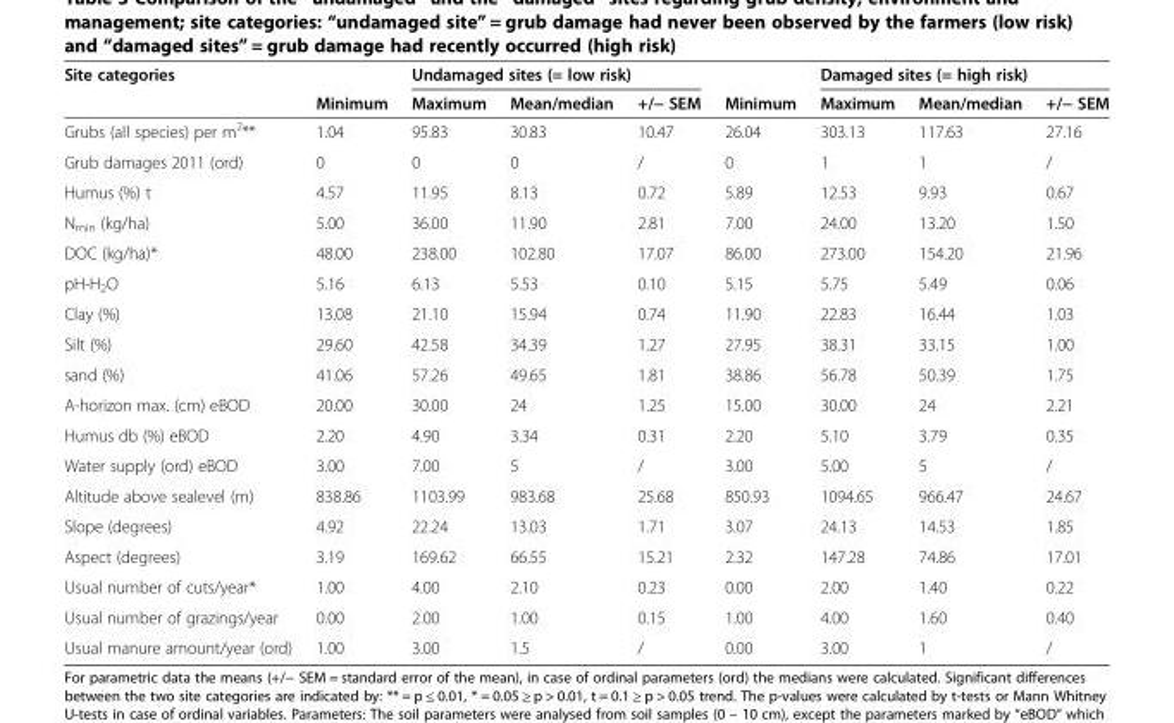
<table><thead><tr><td rowspan="2">Site categories</td><td rowspan="2">Minimum</td><td colspan="3">Undamaged sites (= low risk)</td><td rowspan="2">Minimum</td><td colspan="3">Damaged sites (= high risk)</td></tr><tr><td>Maximum</td><td>Mean/median</td><td>+/− SEM</td><td>Maximum</td><td>Mean/median</td><td>+/− SEM</td></tr></thead><tbody><tr><td>Grubs (all species) per m<sup>2</sup>**</td><td>1.04</td><td>95.83</td><td>30.83</td><td>10.47</td><td>26.04</td><td>303.13</td><td>117.63</td><td>27.16</td></tr><tr><td>Grub damages 2011 (ord)</td><td>0</td><td>0</td><td>0</td><td>/</td><td>0</td><td>1</td><td>1</td><td>/</td></tr><tr><td>Humus (%) t</td><td>4.57</td><td>11.95</td><td>8.13</td><td>0.72</td><td>5.89</td><td>12.53</td><td>9.93</td><td>0.67</td></tr><tr><td>N<sub>min</sub> (kg/ha)</td><td>5.00</td><td>36.00</td><td>11.90</td><td>2.81</td><td>7.00</td><td>24.00</td><td>13.20</td><td>1.50</td></tr><tr><td>DOC (kg/ha)*</td><td>48.00</td><td>238.00</td><td>102.80</td><td>17.07</td><td>86.00</td><td>273.00</td><td>154.20</td><td>21.96</td></tr><tr><td>pH-H<sub>2</sub>O</td><td>5.16</td><td>6.13</td><td>5.53</td><td>0.10</td><td>5.15</td><td>5.75</td><td>5.49</td><td>0.06</td></tr><tr><td>Clay (%)</td><td>13.08</td><td>21.10</td><td>15.94</td><td>0.74</td><td>11.90</td><td>22.83</td><td>16.44</td><td>1.03</td></tr><tr><td>Silt (%)</td><td>29.60</td><td>42.58</td><td>34.39</td><td>1.27</td><td>27.95</td><td>38.31</td><td>33.15</td><td>1.00</td></tr><tr><td>sand (%)</td><td>41.06</td><td>57.26</td><td>49.65</td><td>1.81</td><td>38.86</td><td>56.78</td><td>50.39</td><td>1.75</td></tr><tr><td>A-horizon max. (cm) eBOD</td><td>20.00</td><td>30.00</td><td>24</td><td>1.25</td><td>15.00</td><td>30.00</td><td>24</td><td>2.21</td></tr><tr><td>Humus db (%) eBOD</td><td>2.20</td><td>4.90</td><td>3.34</td><td>0.31</td><td>2.20</td><td>5.10</td><td>3.79</td><td>0.35</td></tr><tr><td>Water supply (ord) eBOD</td><td>3.00</td><td>7.00</td><td>5</td><td>/</td><td>3.00</td><td>5.00</td><td>5</td><td>/</td></tr><tr><td>Altitude above sealevel (m)</td><td>838.86</td><td>1103.99</td><td>983.68</td><td>25.68</td><td>850.93</td><td>1094.65</td><td>966.47</td><td>24.67</td></tr><tr><td>Slope (degrees)</td><td>4.92</td><td>22.24</td><td>13.03</td><td>1.71</td><td>3.07</td><td>24.13</td><td>14.53</td><td>1.85</td></tr><tr><td>Aspect (degrees)</td><td>3.19</td><td>169.62</td><td>66.55</td><td>15.21</td><td>2.32</td><td>147.28</td><td>74.86</td><td>17.01</td></tr><tr><td>Usual number of cuts/year*</td><td>1.00</td><td>4.00</td><td>2.10</td><td>0.23</td><td>0.00</td><td>2.00</td><td>1.40</td><td>0.22</td></tr><tr><td>Usual number of grazings/year</td><td>0.00</td><td>2.00</td><td>1.00</td><td>0.15</td><td>1.00</td><td>4.00</td><td>1.60</td><td>0.40</td></tr><tr><td>Usual manure amount/year (ord)</td><td>1.00</td><td>3.00</td><td>1.5</td><td>/</td><td>0.00</td><td>3.00</td><td>1</td><td>/</td></tr></tbody></table>